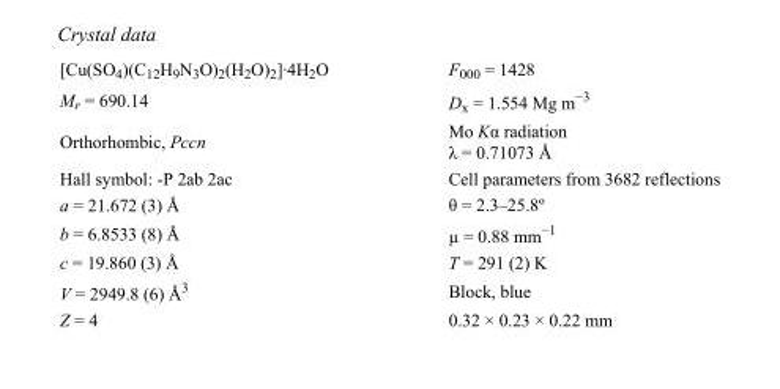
<table><tbody><tr><td>[Cu(SO<sub>4</sub>)(C<sub>12</sub>H<sub>9</sub>N<sub>3</sub>O)<sub>2</sub>(H<sub>2</sub>O)<sub>2</sub>]·4H<sub>2</sub>O</td><td>F<sub>000</sub> = 1428</td></tr><tr><td>M<sub>r</sub> = 690.14</td><td>D<sub>x</sub> = 1.554 Mg m<sup>−3</sup></td></tr><tr><td>Orthorhombic, Pccn</td><td>Mo Kα radiation λ = 0.71073 Å</td></tr><tr><td>Hall symbol: -P 2ab 2ac</td><td>Cell parameters from 3682 reflections</td></tr><tr><td>a = 21.672 (3) Å</td><td>θ = 2.3–25.8º</td></tr><tr><td>b = 6.8533 (8) Å</td><td>µ = 0.88 mm<sup>−1</sup></td></tr><tr><td>c = 19.860 (3) Å</td><td>T = 291 (2) K</td></tr><tr><td>V = 2949.8 (6) Å<sup>3</sup></td><td>Block, blue</td></tr><tr><td>Z = 4</td><td>0.32 × 0.23 × 0.22 mm</td></tr></tbody></table>